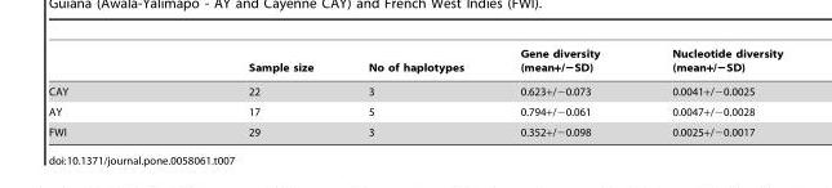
<table><thead><tr><td></td><td>Sample size</td><td>No of haplotypes</td><td>Gene diversity (mean+/−SD)</td><td>Nucleotide diversity (mean+/−SD)</td></tr></thead><tbody><tr><td>CAY</td><td>22</td><td>3</td><td>0.623+/−0.073</td><td>0.0041+/−0.0025</td></tr><tr><td>AY</td><td>17</td><td>5</td><td>0.794+/−0.061</td><td>0.0047+/−0.0028</td></tr><tr><td>FWI</td><td>29</td><td>3</td><td>0.352+/−0.098</td><td>0.0025+/−0.0017</td></tr></tbody></table>